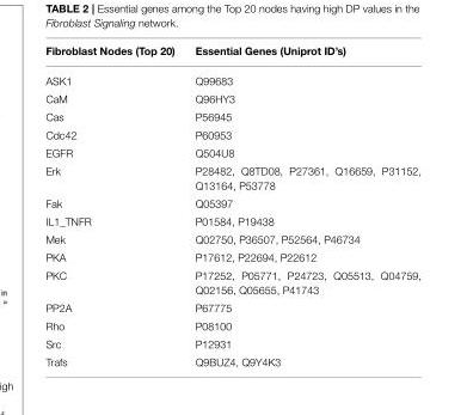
<table><thead><tr><td>Fibroblast Nodes (Top 20)</td><td>Essential Genes (Uniprot ID’s)</td></tr></thead><tbody><tr><td>ASK1</td><td>Q99683</td></tr><tr><td>CaM</td><td>Q96HY3</td></tr><tr><td>Cas</td><td>P56945</td></tr><tr><td>Cdc42</td><td>P60953</td></tr><tr><td>EGFR</td><td>Q504U8</td></tr><tr><td>Erk</td><td>P28482, Q8TD08, P27361, Q16659, P31152, Q13164, P53778</td></tr><tr><td>Fak</td><td>Q05397</td></tr><tr><td>IL1_TNFR</td><td>P01584, P19438</td></tr><tr><td>Mek</td><td>Q02750, P36507, P52564, P46734</td></tr><tr><td>PKA</td><td>P17612, P22694, P22612</td></tr><tr><td>PKC</td><td>P17252, P05771, P24723, Q05513, Q04759, Q02156, Q05655, P41743</td></tr><tr><td>PP2A</td><td>P67775</td></tr><tr><td>Rho</td><td>P08100</td></tr><tr><td>Src</td><td>P12931</td></tr><tr><td>Trafs</td><td>Q9BUZ4, Q9Y4K3</td></tr></tbody></table>